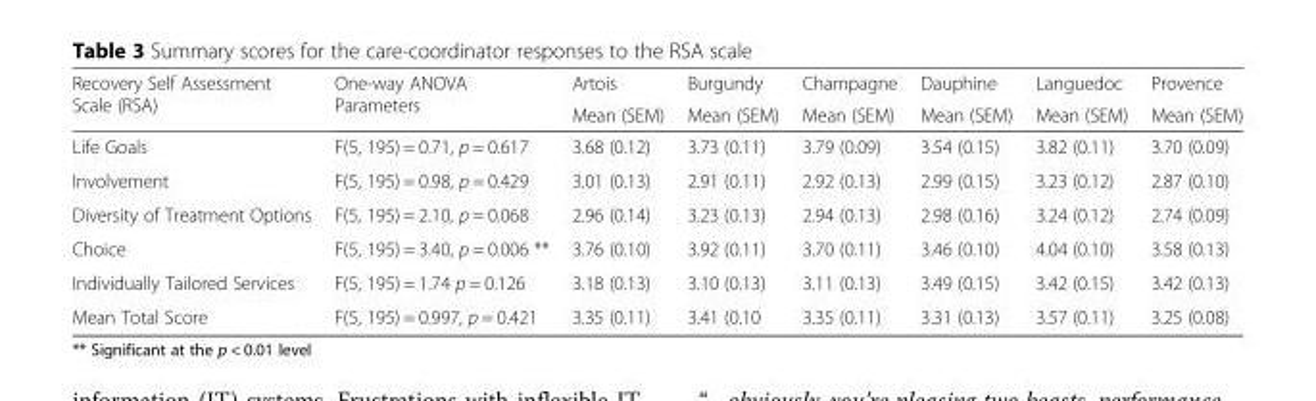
<table><thead><tr><td rowspan="2">Recovery Self Assessment Scale (RSA)</td><td rowspan="2">One-way ANOVA Parameters</td><td rowspan="2">Artois Mean (SEM)</td><td rowspan="2">Burgundy Mean (SEM)</td><td rowspan="2">Champagne Mean (SEM)</td><td rowspan="2">Dauphine Mean (SEM)</td><td rowspan="2">Languedoc Mean (SEM)</td><td rowspan="2">Provence Mean (SEM)</td></tr><tr></tr></thead><tbody><tr><td>Life Goals</td><td>F(5, 195) = 0.71, p = 0.617</td><td>3.68 (0.12)</td><td>3.73 (0.11)</td><td>3.79 (0.09)</td><td>3.54 (0.15)</td><td>3.82 (0.11)</td><td>3.70 (0.09)</td></tr><tr><td>Involvement</td><td>F(5, 195) = 0.98, p = 0.429</td><td>3.01 (0.13)</td><td>2.91 (0.11)</td><td>2.92 (0.13)</td><td>2.99 (0.15)</td><td>3.23 (0.12)</td><td>2.87 (0.10)</td></tr><tr><td>Diversity of Treatment Options</td><td>F(5, 195) = 2.10, p = 0.068</td><td>2.96 (0.14)</td><td>3.23 (0.13)</td><td>2.94 (0.13)</td><td>2.98 (0.16)</td><td>3.24 (0.12)</td><td>2.74 (0.09)</td></tr><tr><td>Choice</td><td>F(5, 195) = 3.40, p = 0.006 **</td><td>3.76 (0.10)</td><td>3.92 (0.11)</td><td>3.70 (0.11)</td><td>3.46 (0.10)</td><td>4.04 (0.10)</td><td>3.58 (0.13)</td></tr><tr><td>Individually Tailored Services</td><td>F(5, 195) = 1.74 p = 0.126</td><td>3.18 (0.13)</td><td>3.10 (0.13)</td><td>3.11 (0.13)</td><td>3.49 (0.15)</td><td>3.42 (0.15)</td><td>3.42 (0.13)</td></tr><tr><td>Mean Total Score</td><td>F(5, 195) = 0.997, p = 0.421</td><td>3.35 (0.11)</td><td>3.41 (0.10</td><td>3.35 (0.11)</td><td>3.31 (0.13)</td><td>3.57 (0.11)</td><td>3.25 (0.08)</td></tr></tbody></table>